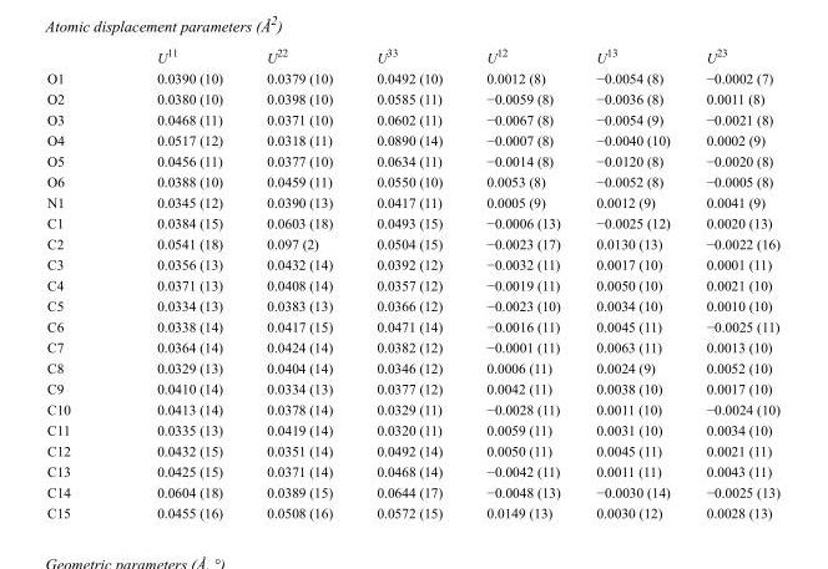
<table><thead><tr><td></td><td>U<sup>11</sup></td><td>U<sup>22</sup></td><td>U<sup>33</sup></td><td>U<sup>12</sup></td><td>U<sup>13</sup></td><td>U<sup>23</sup></td></tr></thead><tbody><tr><td>O1</td><td>0.0390 (10)</td><td>0.0379 (10)</td><td>0.0492 (10)</td><td>0.0012 (8)</td><td>−0.0054 (8)</td><td>−0.0002 (7)</td></tr><tr><td>O2</td><td>0.0380 (10)</td><td>0.0398 (10)</td><td>0.0585 (11)</td><td>−0.0059 (8)</td><td>−0.0036 (8)</td><td>0.0011 (8)</td></tr><tr><td>O3</td><td>0.0468 (11)</td><td>0.0371 (10)</td><td>0.0602 (11)</td><td>−0.0067 (8)</td><td>−0.0054 (9)</td><td>−0.0021 (8)</td></tr><tr><td>O4</td><td>0.0517 (12)</td><td>0.0318 (11)</td><td>0.0890 (14)</td><td>−0.0007 (8)</td><td>−0.0040 (10)</td><td>0.0002 (9)</td></tr><tr><td>O5</td><td>0.0456 (11)</td><td>0.0377 (10)</td><td>0.0634 (11)</td><td>−0.0014 (8)</td><td>−0.0120 (8)</td><td>−0.0020 (8)</td></tr><tr><td>O6</td><td>0.0388 (10)</td><td>0.0459 (11)</td><td>0.0550 (10)</td><td>0.0053 (8)</td><td>−0.0052 (8)</td><td>−0.0005 (8)</td></tr><tr><td>N1</td><td>0.0345 (12)</td><td>0.0390 (13)</td><td>0.0417 (11)</td><td>0.0005 (9)</td><td>0.0012 (9)</td><td>0.0041 (9)</td></tr><tr><td>C1</td><td>0.0384 (15)</td><td>0.0603 (18)</td><td>0.0493 (15)</td><td>−0.0006 (13)</td><td>−0.0025 (12)</td><td>0.0020 (13)</td></tr><tr><td>C2</td><td>0.0541 (18)</td><td>0.097 (2)</td><td>0.0504 (15)</td><td>−0.0023 (17)</td><td>0.0130 (13)</td><td>−0.0022 (16)</td></tr><tr><td>C3</td><td>0.0356 (13)</td><td>0.0432 (14)</td><td>0.0392 (12)</td><td>−0.0032 (11)</td><td>0.0017 (10)</td><td>0.0001 (11)</td></tr><tr><td>C4</td><td>0.0371 (13)</td><td>0.0408 (14)</td><td>0.0357 (12)</td><td>−0.0019 (11)</td><td>0.0050 (10)</td><td>0.0021 (10)</td></tr><tr><td>C5</td><td>0.0334 (13)</td><td>0.0383 (13)</td><td>0.0366 (12)</td><td>−0.0023 (10)</td><td>0.0034 (10)</td><td>0.0010 (10)</td></tr><tr><td>C6</td><td>0.0338 (14)</td><td>0.0417 (15)</td><td>0.0471 (14)</td><td>−0.0016 (11)</td><td>0.0045 (11)</td><td>−0.0025 (11)</td></tr><tr><td>C7</td><td>0.0364 (14)</td><td>0.0424 (14)</td><td>0.0382 (12)</td><td>−0.0001 (11)</td><td>0.0063 (11)</td><td>0.0013 (10)</td></tr><tr><td>C8</td><td>0.0329 (13)</td><td>0.0404 (14)</td><td>0.0346 (12)</td><td>0.0006 (11)</td><td>0.0024 (9)</td><td>0.0052 (10)</td></tr><tr><td>C9</td><td>0.0410 (14)</td><td>0.0334 (13)</td><td>0.0377 (12)</td><td>0.0042 (11)</td><td>0.0038 (10)</td><td>0.0017 (10)</td></tr><tr><td>C10</td><td>0.0413 (14)</td><td>0.0378 (14)</td><td>0.0329 (11)</td><td>−0.0028 (11)</td><td>0.0011 (10)</td><td>−0.0024 (10)</td></tr><tr><td>C11</td><td>0.0335 (13)</td><td>0.0419 (14)</td><td>0.0320 (11)</td><td>0.0059 (11)</td><td>0.0031 (10)</td><td>0.0034 (10)</td></tr><tr><td>C12</td><td>0.0432 (15)</td><td>0.0351 (14)</td><td>0.0492 (14)</td><td>0.0050 (11)</td><td>0.0045 (11)</td><td>0.0021 (11)</td></tr><tr><td>C13</td><td>0.0425 (15)</td><td>0.0371 (14)</td><td>0.0468 (14)</td><td>−0.0042 (11)</td><td>0.0011 (11)</td><td>0.0043 (11)</td></tr><tr><td>C14</td><td>0.0604 (18)</td><td>0.0389 (15)</td><td>0.0644 (17)</td><td>−0.0048 (13)</td><td>−0.0030 (14)</td><td>−0.0025 (13)</td></tr><tr><td>C15</td><td>0.0455 (16)</td><td>0.0508 (16)</td><td>0.0572 (15)</td><td>0.0149 (13)</td><td>0.0030 (12)</td><td>0.0028 (13)</td></tr></tbody></table>